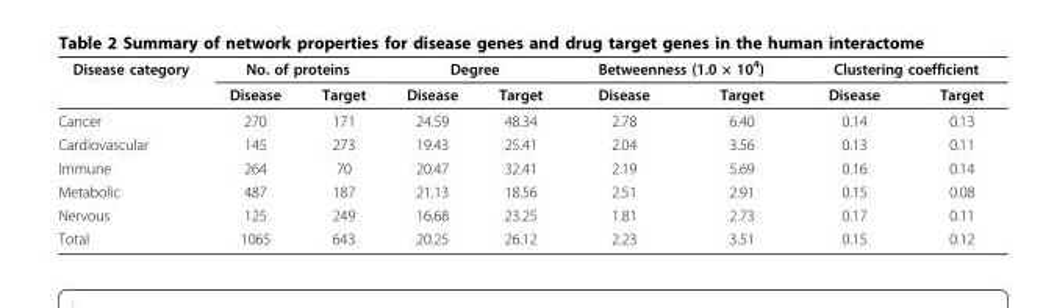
<table><thead><tr><td rowspan="2">Disease category</td><td colspan="2">No. of proteins</td><td colspan="2">Degree</td><td colspan="2">Betweenness (1.0 × 10<sup>4</sup>)</td><td colspan="2">Clustering coefficient</td></tr><tr><td>Disease</td><td>Target</td><td>Disease</td><td>Target</td><td>Disease</td><td>Target</td><td>Disease</td><td>Target</td></tr></thead><tbody><tr><td>Cancer</td><td>270</td><td>171</td><td>24.59</td><td>48.34</td><td>2.78</td><td>6.40</td><td>0.14</td><td>0.13</td></tr><tr><td>Cardiovascular</td><td>145</td><td>273</td><td>19.43</td><td>25.41</td><td>2.04</td><td>3.56</td><td>0.13</td><td>0.11</td></tr><tr><td>Immune</td><td>264</td><td>70</td><td>20.47</td><td>32.41</td><td>2.19</td><td>5.69</td><td>0.16</td><td>0.14</td></tr><tr><td>Metabolic</td><td>487</td><td>187</td><td>21.13</td><td>18.56</td><td>2.51</td><td>2.91</td><td>0.15</td><td>0.08</td></tr><tr><td>Nervous</td><td>125</td><td>249</td><td>16.68</td><td>23.25</td><td>1.81</td><td>2.73</td><td>0.17</td><td>0.11</td></tr><tr><td>Total</td><td>1065</td><td>643</td><td>20.25</td><td>26.12</td><td>2.23</td><td>3.51</td><td>0.15</td><td>0.12</td></tr></tbody></table>